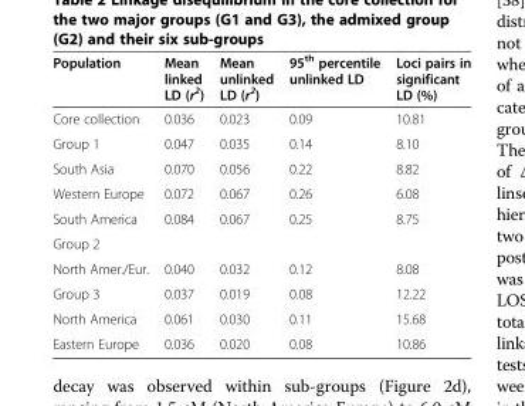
<table><thead><tr><td>Population</td><td>Mean linked LD (r<sup>2</sup>)</td><td>Mean unlinked LD (r<sup>2</sup>)</td><td>95<sup>th</sup> percentile unlinked LD</td><td>Loci pairs in significant LD (%)</td></tr></thead><tbody><tr><td>Core collection</td><td>0.036</td><td>0.023</td><td>0.09</td><td>10.81</td></tr><tr><td>Group 1</td><td>0.047</td><td>0.035</td><td>0.14</td><td>8.10</td></tr><tr><td>South Asia</td><td>0.070</td><td>0.056</td><td>0.22</td><td>8.82</td></tr><tr><td>Western Europe</td><td>0.072</td><td>0.067</td><td>0.26</td><td>6.08</td></tr><tr><td>South America</td><td>0.084</td><td>0.067</td><td>0.25</td><td>8.75</td></tr><tr><td colspan="5">Group 2</td></tr><tr><td>North Amer./Eur.</td><td>0.040</td><td>0.032</td><td>0.12</td><td>8.08</td></tr><tr><td>Group 3</td><td>0.037</td><td>0.019</td><td>0.08</td><td>12.22</td></tr><tr><td>North America</td><td>0.061</td><td>0.030</td><td>0.11</td><td>15.68</td></tr><tr><td>Eastern Europe</td><td>0.036</td><td>0.020</td><td>0.08</td><td>10.86</td></tr></tbody></table>